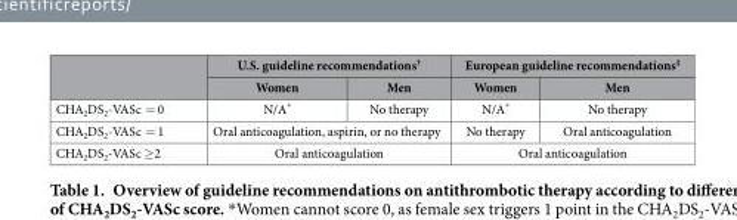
<table><thead><tr><td rowspan="2"></td><td colspan="2">U.S. guideline recommendations<sup>†</sup></td><td colspan="2">European guideline recommendations<sup>‡</sup></td></tr><tr><td>Women</td><td>Men</td><td>Women</td><td>Men</td></tr></thead><tbody><tr><td>CHA<sub>2</sub>DS<sub>2</sub>-VASc = 0</td><td>N/A*</td><td>No therapy</td><td>N/A*</td><td>No therapy</td></tr><tr><td>CHA<sub>2</sub>DS<sub>2</sub>-VASc = 1</td><td colspan="2">Oral anticoagulation, aspirin, or no therapy</td><td>No therapy</td><td>Oral anticoagulation</td></tr><tr><td>CHA<sub>2</sub>DS<sub>2</sub>-VASc ≥ 2</td><td colspan="2">Oral anticoagulation</td><td colspan="2">Oral anticoagulation</td></tr></tbody></table>